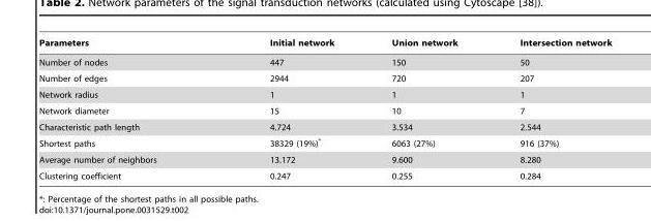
<table><thead><tr><td>Parameters</td><td>Initial network</td><td>Union network</td><td>Intersection network</td></tr></thead><tbody><tr><td>Number of nodes</td><td>447</td><td>150</td><td>50</td></tr><tr><td>Number of edges</td><td>2944</td><td>720</td><td>207</td></tr><tr><td>Network radius</td><td>1</td><td>1</td><td>1</td></tr><tr><td>Network diameter</td><td>15</td><td>10</td><td>7</td></tr><tr><td>Characteristic path length</td><td>4.724</td><td>3.534</td><td>2.544</td></tr><tr><td>Shortest paths</td><td>38329 (19%)*</td><td>6063 (27%)</td><td>916 (37%)</td></tr><tr><td>Average number of neighbors</td><td>13.172</td><td>9.600</td><td>8.280</td></tr><tr><td>Clustering coefficient</td><td>0.247</td><td>0.255</td><td>0.284</td></tr></tbody></table>